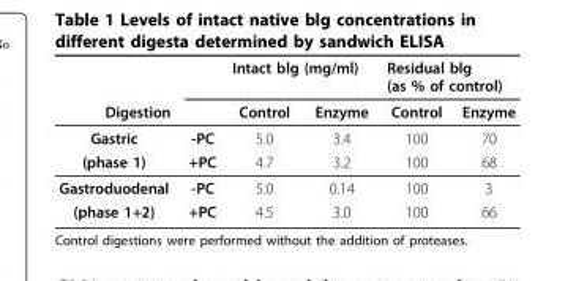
<table><thead><tr><td></td><td></td><td colspan="2">Intact blg (mg/ml)</td><td colspan="2">Residual blg (as % of control)</td></tr><tr><td colspan="2">Digestion</td><td>Control</td><td>Enzyme</td><td>Control</td><td>Enzyme</td></tr></thead><tbody><tr><td>Gastric</td><td>-PC</td><td>5.0</td><td>3.4</td><td>100</td><td>70</td></tr><tr><td>(phase 1)</td><td>+PC</td><td>4.7</td><td>3.2</td><td>100</td><td>68</td></tr><tr><td>Gastroduodenal</td><td>-PC</td><td>5.0</td><td>0.14</td><td>100</td><td>3</td></tr><tr><td>(phase 1+2)</td><td>+PC</td><td>4.5</td><td>3.0</td><td>100</td><td>66</td></tr></tbody></table>